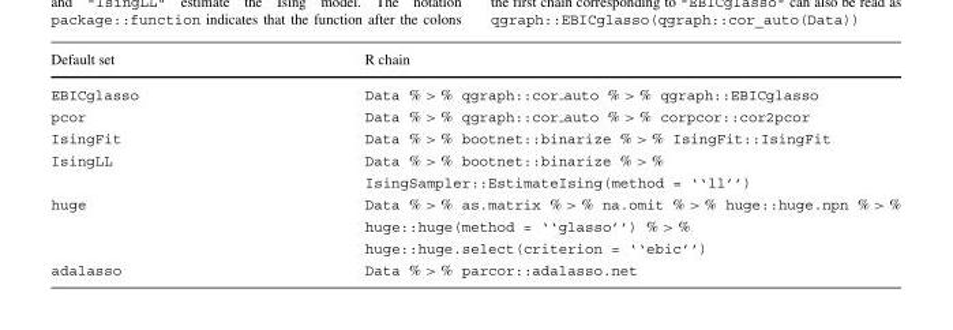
<table><thead><tr><td>Default set</td><td>R chain</td></tr></thead><tbody><tr><td>EBICglasso</td><td>Data % &gt; % qgraph::cor auto % &gt; % qgraph::EBICglasso</td></tr><tr><td>pcor</td><td>Data % &gt; % qgraph::cor auto % &gt; % corpcor::cor2pcor</td></tr><tr><td>IsingFit</td><td>Data % &gt; % bootnet::binarize % &gt; % IsingFit::IsingFit</td></tr><tr><td rowspan="2">IsingLL</td><td>Data % &gt; % bootnet::binarize % &gt; %</td></tr><tr><td>IsingSampler::EstimateIsing(method = ‘‘ll’’)</td></tr><tr><td rowspan="3">huge</td><td>Data % &gt; % as.matrix % &gt; % na.omit % &gt; % huge::huge.npn % &gt; %</td></tr><tr><td>huge::huge(method = ‘‘glasso’’) % &gt; %</td></tr><tr><td>huge::huge.select(criterion = ‘‘ebic’’)</td></tr><tr><td>adalasso</td><td>Data % &gt; % parcor::adalasso.net</td></tr></tbody></table>